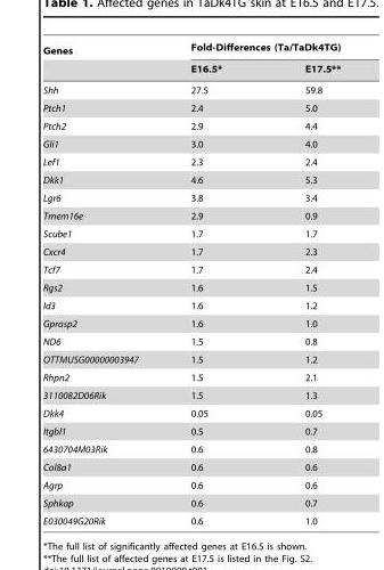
<table><thead><tr><td rowspan="2">Genes</td><td colspan="2">Fold-Differences (Ta/TaDk4TG)</td></tr><tr><td>E16.5*</td><td>E17.5**</td></tr></thead><tbody><tr><td>Shh</td><td>27.5</td><td>59.8</td></tr><tr><td>Ptch1</td><td>2.4</td><td>5.0</td></tr><tr><td>Ptch2</td><td>2.9</td><td>4.4</td></tr><tr><td>Gli1</td><td>3.0</td><td>4.0</td></tr><tr><td>Lef1</td><td>2.3</td><td>2.4</td></tr><tr><td>Dkk1</td><td>4.6</td><td>5.3</td></tr><tr><td>Lgr6</td><td>3.8</td><td>3.4</td></tr><tr><td>Tmem16e</td><td>2.9</td><td>0.9</td></tr><tr><td>Scube1</td><td>1.7</td><td>1.7</td></tr><tr><td>Cxcr4</td><td>1.7</td><td>2.3</td></tr><tr><td>Tcf7</td><td>1.7</td><td>2.4</td></tr><tr><td>Rgs2</td><td>1.6</td><td>1.5</td></tr><tr><td>Id3</td><td>1.6</td><td>1.2</td></tr><tr><td>Gprasp2</td><td>1.6</td><td>1.0</td></tr><tr><td>ND6</td><td>1.5</td><td>0.8</td></tr><tr><td>OTTMUSG00000003947</td><td>1.5</td><td>1.2</td></tr><tr><td>Rhpn2</td><td>1.5</td><td>2.1</td></tr><tr><td>3110082D06Rik</td><td>1.5</td><td>1.3</td></tr><tr><td>Dkk4</td><td>0.05</td><td>0.05</td></tr><tr><td>Itgbl1</td><td>0.5</td><td>0.7</td></tr><tr><td>6430704M03Rik</td><td>0.6</td><td>0.8</td></tr><tr><td>Col8a1</td><td>0.6</td><td>0.6</td></tr><tr><td>Agrp</td><td>0.6</td><td>0.6</td></tr><tr><td>Sphkap</td><td>0.6</td><td>0.7</td></tr><tr><td>E030049G20Rik</td><td>0.6</td><td>1.0</td></tr></tbody></table>